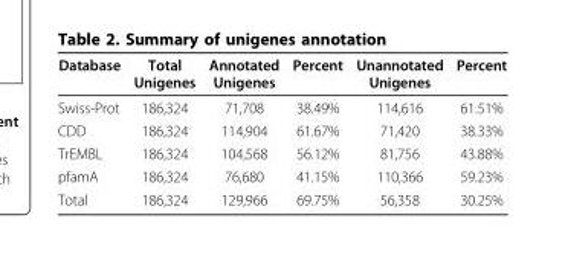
<table><thead><tr><td>Database</td><td>Total Unigenes</td><td>Annotated Unigenes</td><td>Percent</td><td>Unannotated Unigenes</td><td>Percent</td></tr></thead><tbody><tr><td>Swiss-Prot</td><td>186,324</td><td>71,708</td><td>38.49%</td><td>114,616</td><td>61.51%</td></tr><tr><td>CDD</td><td>186,324</td><td>114,904</td><td>61.67%</td><td>71,420</td><td>38.33%</td></tr><tr><td>TrEMBL</td><td>186,324</td><td>104,568</td><td>56.12%</td><td>81,756</td><td>43.88%</td></tr><tr><td>pfamA</td><td>186,324</td><td>76,680</td><td>41.15%</td><td>110,366</td><td>59.23%</td></tr><tr><td>Total</td><td>186,324</td><td>129,966</td><td>69.75%</td><td>56,358</td><td>30.25%</td></tr></tbody></table>